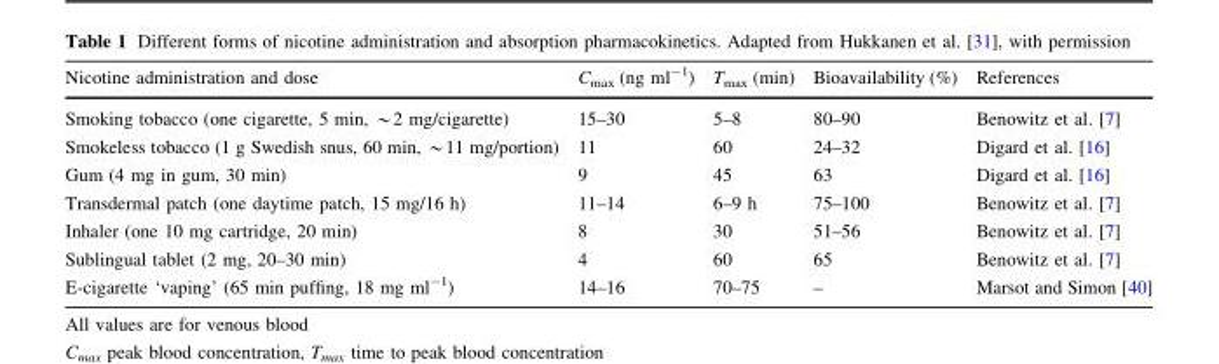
<table><thead><tr><td>Nicotine administration and dose</td><td>C<sub>max</sub> (ng ml<sup>-1</sup>)</td><td>T<sub>max</sub> (min)</td><td>Bioavailability (%)</td><td>References</td></tr></thead><tbody><tr><td>Smoking tobacco (one cigarette, 5 min, *2 mg/cigarette)</td><td>15–30</td><td>5–8</td><td>80–90</td><td>Benowitz et al. [7]</td></tr><tr><td>Smokeless tobacco (1 g Swedish snus, 60 min, *11 mg/portion)</td><td>11</td><td>60</td><td>24–32</td><td>Digard et al. [16]</td></tr><tr><td>Gum (4 mg in gum, 30 min)</td><td>9</td><td>45</td><td>63</td><td>Digard et al. [16]</td></tr><tr><td>Transdermal patch (one daytime patch, 15 mg/16 h)</td><td>11–14</td><td>6–9 h</td><td>75–100</td><td>Benowitz et al. [7]</td></tr><tr><td>Inhaler (one 10 mg cartridge, 20 min)</td><td>8</td><td>30</td><td>51–56</td><td>Benowitz et al. [7]</td></tr><tr><td>Sublingual tablet (2 mg, 20–30 min)</td><td>4</td><td>60</td><td>65</td><td>Benowitz et al. [7]</td></tr><tr><td>E-cigarette ‘vaping’ (65 min puffing, 18 mg ml<sup>-1</sup>)</td><td>14–16</td><td>70–75</td><td>–</td><td>Marsot and Simon [40]</td></tr></tbody></table>